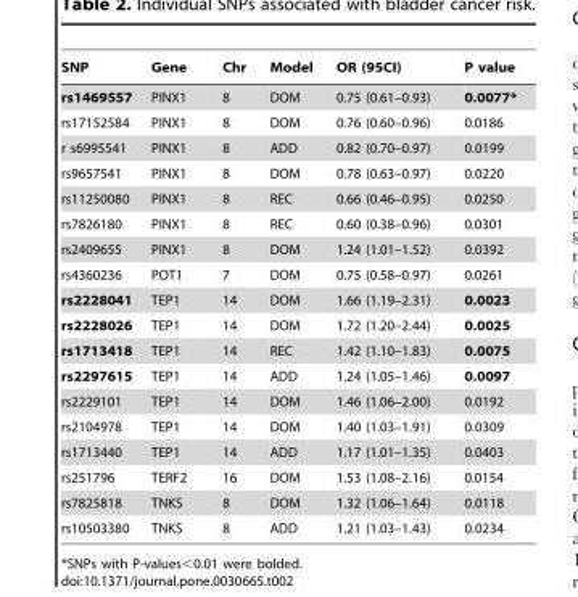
<table><thead><tr><td>SNP</td><td>Gene</td><td>Chr</td><td>Model</td><td>OR (95CI)</td><td>P value</td></tr></thead><tbody><tr><td>rs1469557</td><td>PINX1</td><td>8</td><td>DOM</td><td>0.75 (0.61–0.93)</td><td>0.0077*</td></tr><tr><td>rs17152584</td><td>PINX1</td><td>8</td><td>DOM</td><td>0.76 (0.60–0.96)</td><td>0.0186</td></tr><tr><td>r s6995541</td><td>PINX1</td><td>8</td><td>ADD</td><td>0.82 (0.70–0.97)</td><td>0.0199</td></tr><tr><td>rs9657541</td><td>PINX1</td><td>8</td><td>DOM</td><td>0.78 (0.63–0.97)</td><td>0.0220</td></tr><tr><td>rs11250080</td><td>PINX1</td><td>8</td><td>REC</td><td>0.66 (0.46–0.95)</td><td>0.0250</td></tr><tr><td>rs7826180</td><td>PINX1</td><td>8</td><td>REC</td><td>0.60 (0.38–0.96)</td><td>0.0301</td></tr><tr><td>rs2409655</td><td>PINX1</td><td>8</td><td>DOM</td><td>1.24 (1.01–1.52)</td><td>0.0392</td></tr><tr><td>rs4360236</td><td>POT1</td><td>7</td><td>DOM</td><td>0.75 (0.58–0.97)</td><td>0.0261</td></tr><tr><td>rs2228041</td><td>TEP1</td><td>14</td><td>DOM</td><td>1.66 (1.19–2.31)</td><td>0.0023</td></tr><tr><td>rs2228026</td><td>TEP1</td><td>14</td><td>DOM</td><td>1.72 (1.20–2.44)</td><td>0.0025</td></tr><tr><td>rs1713418</td><td>TEP1</td><td>14</td><td>REC</td><td>1.42 (1.10–1.83)</td><td>0.0075</td></tr><tr><td>rs2297615</td><td>TEP1</td><td>14</td><td>ADD</td><td>1.24 (1.05–1.46)</td><td>0.0097</td></tr><tr><td>rs2229101</td><td>TEP1</td><td>14</td><td>DOM</td><td>1.46 (1.06–2.00)</td><td>0.0192</td></tr><tr><td>rs2104978</td><td>TEP1</td><td>14</td><td>DOM</td><td>1.40 (1.03–1.91)</td><td>0.0309</td></tr><tr><td>rs1713440</td><td>TEP1</td><td>14</td><td>ADD</td><td>1.17 (1.01–1.35)</td><td>0.0403</td></tr><tr><td>rs251796</td><td>TERF2</td><td>16</td><td>DOM</td><td>1.53 (1.08–2.16)</td><td>0.0154</td></tr><tr><td>rs7825818</td><td>TNKS</td><td>8</td><td>DOM</td><td>1.32 (1.06–1.64)</td><td>0.0118</td></tr><tr><td>rs10503380</td><td>TNKS</td><td>8</td><td>ADD</td><td>1.21 (1.03–1.43)</td><td>0.0234</td></tr></tbody></table>